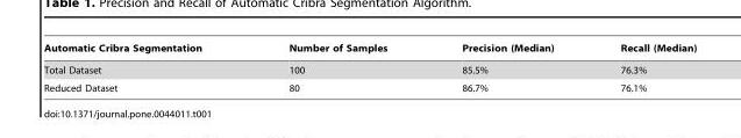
<table><thead><tr><td>Automatic Cribra Segmentation</td><td>Number of Samples</td><td>Precision (Median)</td><td>Recall (Median)</td></tr></thead><tbody><tr><td>Total Dataset</td><td>100</td><td>85.5%</td><td>76.3%</td></tr><tr><td>Reduced Dataset</td><td>80</td><td>86.7%</td><td>76.1%</td></tr></tbody></table>